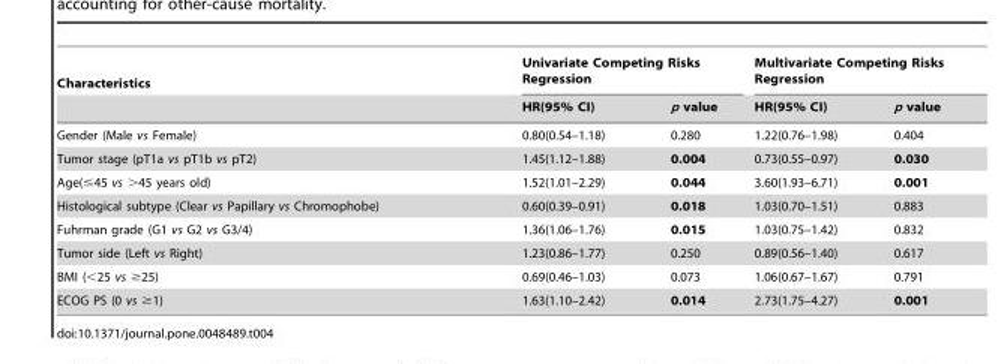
<table><thead><tr><td rowspan="2">Characteristics</td><td colspan="2">Univariate Competing Risks Regression</td><td colspan="2">Multivariate Competing Risks Regression</td></tr><tr><td>HR(95% CI)</td><td>p value</td><td>HR(95% CI)</td><td>p value</td></tr></thead><tbody><tr><td>Gender (Male vs Female)</td><td>0.80(0.54–1.18)</td><td>0.280</td><td>1.22(0.76–1.98)</td><td>0.404</td></tr><tr><td>Tumor stage (pT1a vs pT1b vs pT2)</td><td>1.45(1.12–1.88)</td><td>0.004</td><td>0.73(0.55–0.97)</td><td>0.030</td></tr><tr><td>Age(≤45 vs &gt;45 years old)</td><td>1.52(1.01–2.29)</td><td>0.044</td><td>3.60(1.93–6.71)</td><td>0.001</td></tr><tr><td>Histological subtype (Clear vs Papillary vs Chromophobe)</td><td>0.60(0.39–0.91)</td><td>0.018</td><td>1.03(0.70–1.51)</td><td>0.883</td></tr><tr><td>Fuhrman grade (G1 vs G2 vs G3/4)</td><td>1.36(1.06–1.76)</td><td>0.015</td><td>1.03(0.75–1.42)</td><td>0.832</td></tr><tr><td>Tumor side (Left vs Right)</td><td>1.23(0.86–1.77)</td><td>0.250</td><td>0.89(0.56–1.40)</td><td>0.617</td></tr><tr><td>BMI (&lt;25 vs ≥25)</td><td>0.69(0.46–1.03)</td><td>0.073</td><td>1.06(0.67–1.67)</td><td>0.791</td></tr><tr><td>ECOG PS (0 vs ≥1)</td><td>1.63(1.10–2.42)</td><td>0.014</td><td>2.73(1.75–4.27)</td><td>0.001</td></tr></tbody></table>